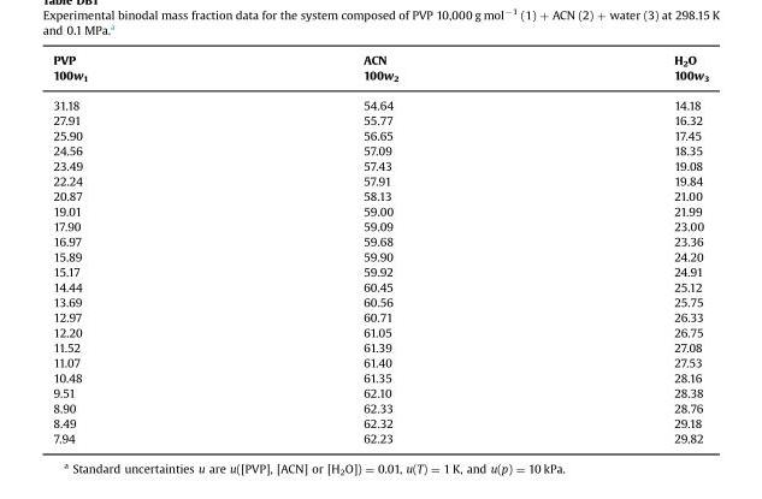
<table><thead><tr><td rowspan="2">PVP 100w<sub>1</sub></td><td rowspan="2">ACN 100w<sub>2</sub></td><td rowspan="2">H<sub>2</sub>O 100w<sub>3</sub></td></tr><tr></tr></thead><tbody><tr><td>31.18</td><td>54.64</td><td>14.18</td></tr><tr><td>27.91</td><td>55.77</td><td>16.32</td></tr><tr><td>25.90</td><td>56.65</td><td>17.45</td></tr><tr><td>24.56</td><td>57.09</td><td>18.35</td></tr><tr><td>23.49</td><td>57.43</td><td>19.08</td></tr><tr><td>22.24</td><td>57.91</td><td>19.84</td></tr><tr><td>20.87</td><td>58.13</td><td>21.00</td></tr><tr><td>19.01</td><td>59.00</td><td>21.99</td></tr><tr><td>17.90</td><td>59.09</td><td>23.00</td></tr><tr><td>16.97</td><td>59.68</td><td>23.36</td></tr><tr><td>15.89</td><td>59.90</td><td>24.20</td></tr><tr><td>15.17</td><td>59.92</td><td>24.91</td></tr><tr><td>14.44</td><td>60.45</td><td>25.12</td></tr><tr><td>13.69</td><td>60.56</td><td>25.75</td></tr><tr><td>12.97</td><td>60.71</td><td>26.33</td></tr><tr><td>12.20</td><td>61.05</td><td>26.75</td></tr><tr><td>11.52</td><td>61.39</td><td>27.08</td></tr><tr><td>11.07</td><td>61.40</td><td>27.53</td></tr><tr><td>10.48</td><td>61.35</td><td>28.16</td></tr><tr><td>9.51</td><td>62.10</td><td>28.38</td></tr><tr><td>8.90</td><td>62.33</td><td>28.76</td></tr><tr><td>8.49</td><td>62.32</td><td>29.18</td></tr><tr><td>7.94</td><td>62.23</td><td>29.82</td></tr></tbody></table>